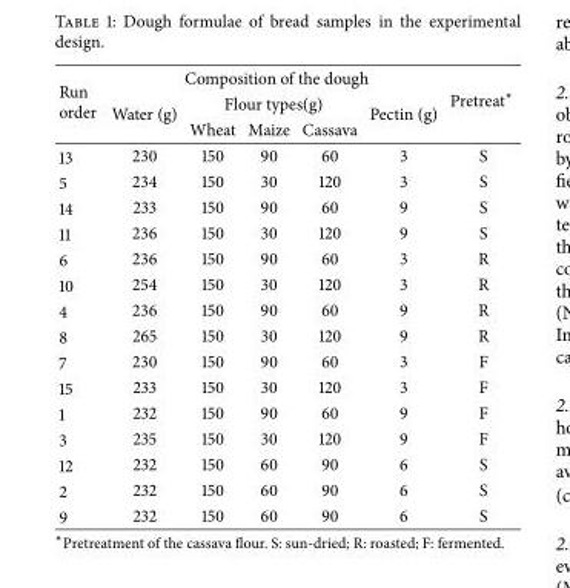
<table><thead><tr><td rowspan="3">Run order</td><td colspan="5">Composition of the dough</td><td rowspan="3">Pretreat∗</td></tr><tr><td rowspan="2">Water (g)</td><td colspan="3">Flour types(g)</td><td rowspan="2">Pectin (g)</td></tr><tr><td>Wheat</td><td>Maize</td><td>Cassava</td></tr></thead><tbody><tr><td>13</td><td>230</td><td>150</td><td>90</td><td>60</td><td>3</td><td>S</td></tr><tr><td>5</td><td>234</td><td>150</td><td>30</td><td>120</td><td>3</td><td>S</td></tr><tr><td>14</td><td>233</td><td>150</td><td>90</td><td>60</td><td>9</td><td>S</td></tr><tr><td>11</td><td>236</td><td>150</td><td>30</td><td>120</td><td>9</td><td>S</td></tr><tr><td>6</td><td>236</td><td>150</td><td>90</td><td>60</td><td>3</td><td>R</td></tr><tr><td>10</td><td>254</td><td>150</td><td>30</td><td>120</td><td>3</td><td>R</td></tr><tr><td>4</td><td>236</td><td>150</td><td>90</td><td>60</td><td>9</td><td>R</td></tr><tr><td>8</td><td>265</td><td>150</td><td>30</td><td>120</td><td>9</td><td>R</td></tr><tr><td>7</td><td>230</td><td>150</td><td>90</td><td>60</td><td>3</td><td>F</td></tr><tr><td>15</td><td>233</td><td>150</td><td>30</td><td>120</td><td>3</td><td>F</td></tr><tr><td>1</td><td>232</td><td>150</td><td>90</td><td>60</td><td>9</td><td>F</td></tr><tr><td>3</td><td>235</td><td>150</td><td>30</td><td>120</td><td>9</td><td>F</td></tr><tr><td>12</td><td>232</td><td>150</td><td>60</td><td>90</td><td>6</td><td>S</td></tr><tr><td>2</td><td>232</td><td>150</td><td>60</td><td>90</td><td>6</td><td>S</td></tr><tr><td>9</td><td>232</td><td>150</td><td>60</td><td>90</td><td>6</td><td>S</td></tr></tbody></table>